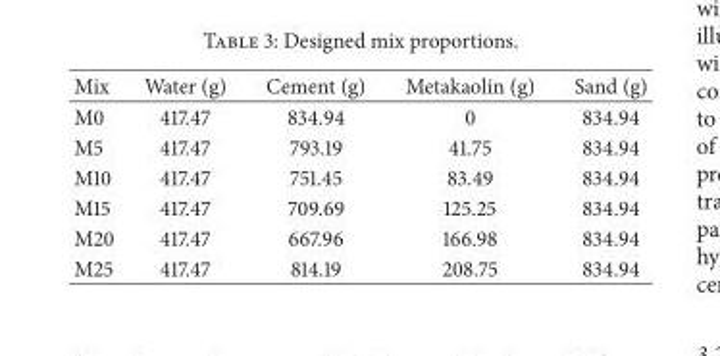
<table><thead><tr><td>Mix</td><td>Water (g)</td><td>Cement (g)</td><td>Metakaolin (g)</td><td>Sand (g)</td></tr></thead><tbody><tr><td>M0</td><td>417.47</td><td>834.94</td><td>0</td><td>834.94</td></tr><tr><td>M5</td><td>417.47</td><td>793.19</td><td>41.75</td><td>834.94</td></tr><tr><td>M10</td><td>417.47</td><td>751.45</td><td>83.49</td><td>834.94</td></tr><tr><td>M15</td><td>417.47</td><td>709.69</td><td>125.25</td><td>834.94</td></tr><tr><td>M20</td><td>417.47</td><td>667.96</td><td>166.98</td><td>834.94</td></tr><tr><td>M25</td><td>417.47</td><td>814.19</td><td>208.75</td><td>834.94</td></tr></tbody></table>